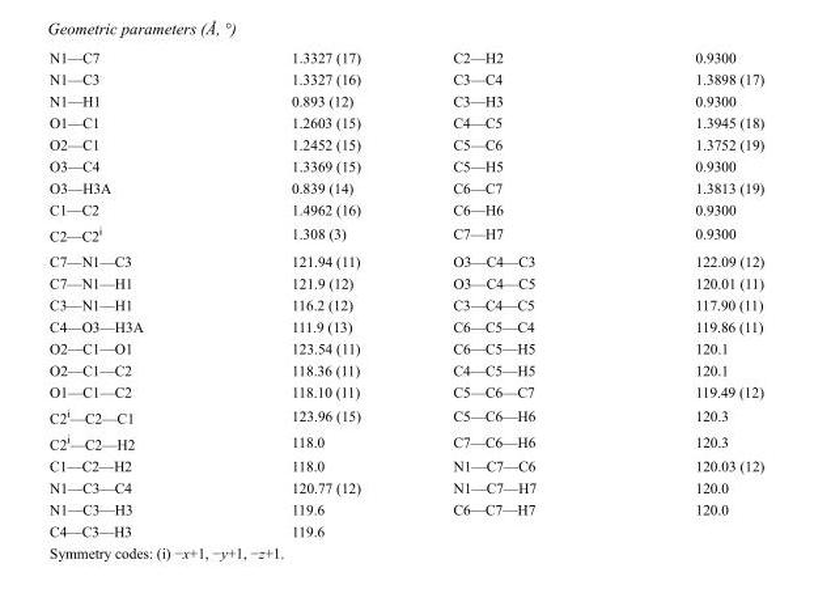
<table><tbody><tr><td>N1—C7</td><td>1.3327 (17)</td><td>C2—H2</td><td>0.9300</td></tr><tr><td>N1—C3</td><td>1.3327 (16)</td><td>C3—C4</td><td>1.3898 (17)</td></tr><tr><td>N1—H1</td><td>0.893 (12)</td><td>C3—H3</td><td>0.9300</td></tr><tr><td>O1—C1</td><td>1.2603 (15)</td><td>C4—C5</td><td>1.3945 (18)</td></tr><tr><td>O2—C1</td><td>1.2452 (15)</td><td>C5—C6</td><td>1.3752 (19)</td></tr><tr><td>O3—C4</td><td>1.3369 (15)</td><td>C5—H5</td><td>0.9300</td></tr><tr><td>O3—H3A</td><td>0.839 (14)</td><td>C6—C7</td><td>1.3813 (19)</td></tr><tr><td>C1—C2</td><td>1.4962 (16)</td><td>C6—H6</td><td>0.9300</td></tr><tr><td>C2—C2<sup>i</sup></td><td>1.308 (3)</td><td>C7—H7</td><td>0.9300</td></tr><tr><td>C7—N1—C3</td><td>121.94 (11)</td><td>O3—C4—C3</td><td>122.09 (12)</td></tr><tr><td>C7—N1—H1</td><td>121.9 (12)</td><td>O3—C4—C5</td><td>120.01 (11)</td></tr><tr><td>C3—N1—H1</td><td>116.2 (12)</td><td>C3—C4—C5</td><td>117.90 (11)</td></tr><tr><td>C4—O3—H3A</td><td>111.9 (13)</td><td>C6—C5—C4</td><td>119.86 (11)</td></tr><tr><td>O2—C1—O1</td><td>123.54 (11)</td><td>C6—C5—H5</td><td>120.1</td></tr><tr><td>O2—C1—C2</td><td>118.36 (11)</td><td>C4—C5—H5</td><td>120.1</td></tr><tr><td>O1—C1—C2</td><td>118.10 (11)</td><td>C5—C6—C7</td><td>119.49 (12)</td></tr><tr><td>C2<sup>i</sup>—C2—C1</td><td>123.96 (15)</td><td>C5—C6—H6</td><td>120.3</td></tr><tr><td>C2<sup>i</sup>—C2—H2</td><td>118.0</td><td>C7—C6—H6</td><td>120.3</td></tr><tr><td>C1—C2—H2</td><td>118.0</td><td>N1—C7—C6</td><td>120.03 (12)</td></tr><tr><td>N1—C3—C4</td><td>120.77 (12)</td><td>N1—C7—H7</td><td>120.0</td></tr><tr><td>N1—C3—H3</td><td>119.6</td><td>C6—C7—H7</td><td>120.0</td></tr><tr><td>C4—C3—H3</td><td>119.6</td><td></td><td></td></tr></tbody></table>